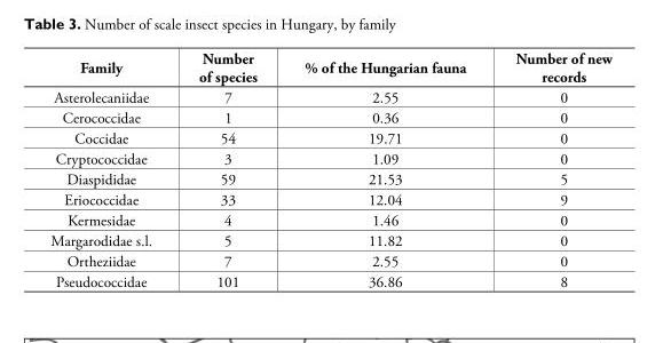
<table><tbody><tr><td>Family</td><td>Number of species</td><td>% of the Hungarian fauna</td><td>Number of new records</td></tr><tr><td>Asterolecaniidae</td><td>7</td><td>2.55</td><td>0</td></tr><tr><td>Cerococcidae</td><td>1</td><td>0.36</td><td>0</td></tr><tr><td>Coccidae</td><td>54</td><td>19.71</td><td>0</td></tr><tr><td>Cryptococcidae</td><td>3</td><td>1.09</td><td>0</td></tr><tr><td>Diaspididae</td><td>59</td><td>21.53</td><td>5</td></tr><tr><td>Eriococcidae</td><td>33</td><td>12.04</td><td>9</td></tr><tr><td>Kermesidae</td><td>4</td><td>1.46</td><td>0</td></tr><tr><td>Margarodidae s.l.</td><td>5</td><td>11.82</td><td>0</td></tr><tr><td>Ortheziidae</td><td>7</td><td>2.55</td><td>0</td></tr><tr><td>Pseudococcidae</td><td>101</td><td>36.86</td><td>8</td></tr></tbody></table>